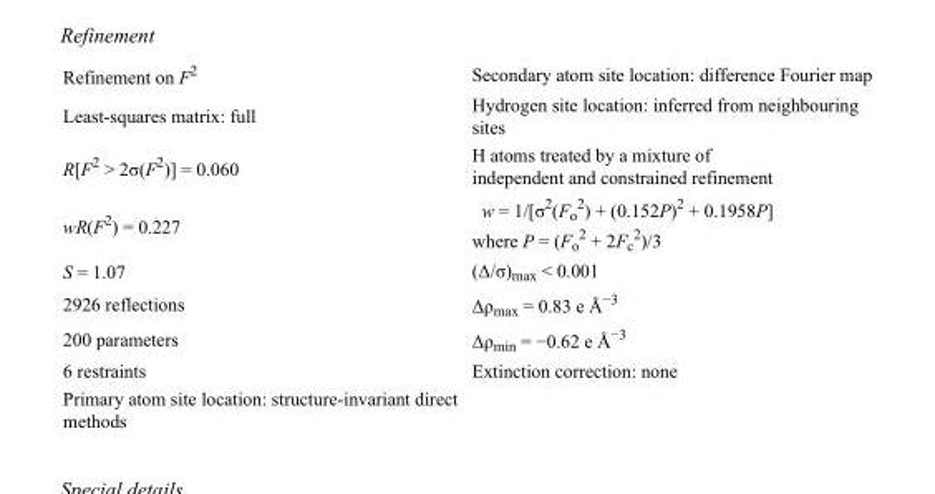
<table><tbody><tr><td>Refinement on F2</td><td>Secondary atom site location: difference Fourier map</td></tr><tr><td>Least-squares matrix: full</td><td>Hydrogen site location: inferred from neighbouring sites</td></tr><tr><td>R[F2 &gt; 2σ(F2)] = 0.060</td><td>H atoms treated by a mixture of independent and constrained refinement</td></tr><tr><td>wR(F2) = 0.227</td><td>w = 1/[σ2(Fo 2) + (0.152P)2 + 0.1958P] where P = (Fo 2 + 2Fc 2)/3</td></tr><tr><td>S = 1.07</td><td>(Δ/σ)max &lt; 0.001</td></tr><tr><td>2926 reflections</td><td>Δρmax = 0.83 e Å−3</td></tr><tr><td>200 parameters</td><td>Δρmin = −0.62 e Å−3</td></tr><tr><td>6 restraints</td><td>Extinction correction: none</td></tr><tr><td>Primary atom site location: structure-invariant direct methods</td><td></td></tr></tbody></table>